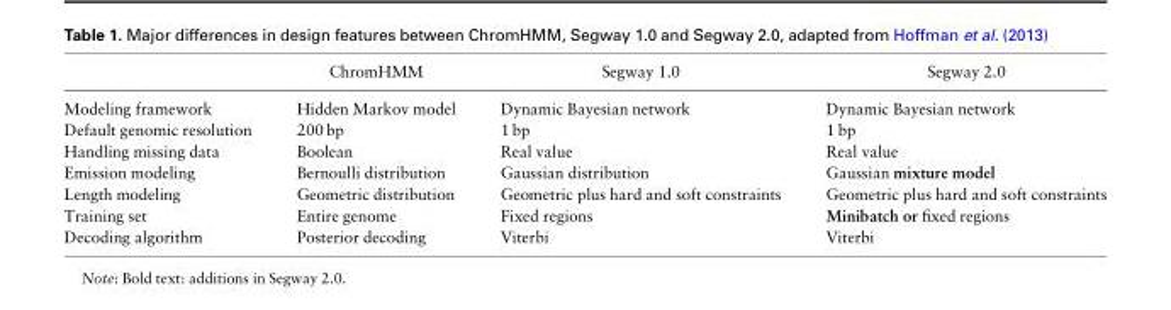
<table><thead><tr><td></td><td>ChromHMM</td><td>Segway 1.0</td><td>Segway 2.0</td></tr></thead><tbody><tr><td>Modeling framework</td><td>Hidden Markov model</td><td>Dynamic Bayesian network</td><td>Dynamic Bayesian network</td></tr><tr><td>Default genomic resolution</td><td>200 bp</td><td>1 bp</td><td>1 bp</td></tr><tr><td>Handling missing data</td><td>Boolean</td><td>Real value</td><td>Real value</td></tr><tr><td>Emission modeling</td><td>Bernoulli distribution</td><td>Gaussian distribution</td><td>Gaussian mixture model</td></tr><tr><td>Length modeling</td><td>Geometric distribution</td><td>Geometric plus hard and soft constraints</td><td>Geometric plus hard and soft constraints</td></tr><tr><td>Training set</td><td>Entire genome</td><td>Fixed regions</td><td>Minibatch or fixed regions</td></tr><tr><td>Decoding algorithm</td><td>Posterior decoding</td><td>Viterbi</td><td>Viterbi</td></tr></tbody></table>